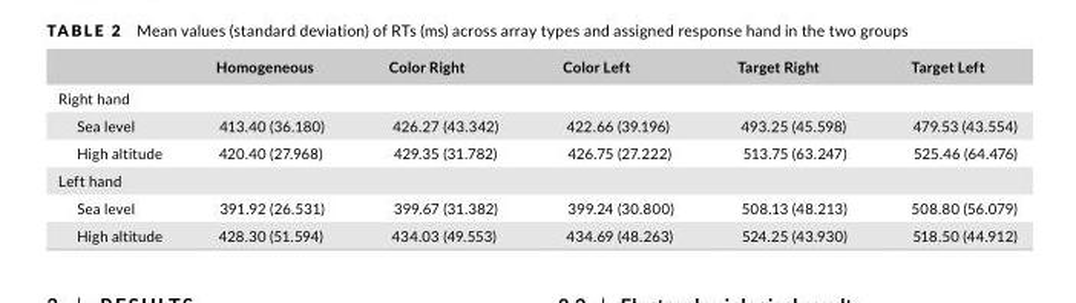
<table><thead><tr><td></td><td>Homogeneous</td><td>Color Right</td><td>Color Left</td><td>Target Right</td><td>Target Left</td></tr></thead><tbody><tr><td colspan="6">Right hand</td></tr><tr><td>Sea level</td><td>413.40 (36.180)</td><td>426.27 (43.342)</td><td>422.66 (39.196)</td><td>493.25 (45.598)</td><td>479.53 (43.554)</td></tr><tr><td>High altitude</td><td>420.40 (27.968)</td><td>429.35 (31.782)</td><td>426.75 (27.222)</td><td>513.75 (63.247)</td><td>525.46 (64.476)</td></tr><tr><td colspan="6">Left hand</td></tr><tr><td>Sea level</td><td>391.92 (26.531)</td><td>399.67 (31.382)</td><td>399.24 (30.800)</td><td>508.13 (48.213)</td><td>508.80 (56.079)</td></tr><tr><td>High altitude</td><td>428.30 (51.594)</td><td>434.03 (49.553)</td><td>434.69 (48.263)</td><td>524.25 (43.930)</td><td>518.50 (44.912)</td></tr></tbody></table>